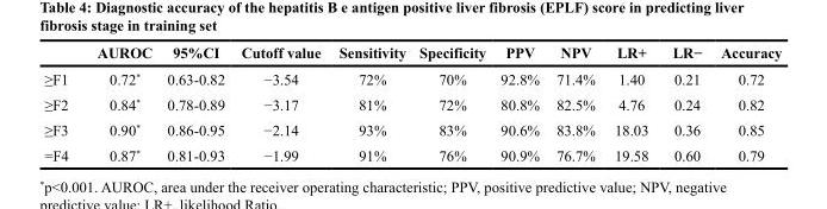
<table><thead><tr><td></td><td>AUROC</td><td>95%CI</td><td>Cutoff value</td><td>Sensitivity</td><td>Specificity</td><td>PPV</td><td>NPV</td><td>LR+</td><td>LR−</td><td>Accuracy</td></tr></thead><tbody><tr><td>≥F1</td><td>0.72*</td><td>0.63-0.82</td><td>−3.54</td><td>72%</td><td>70%</td><td>92.8%</td><td>71.4%</td><td>1.40</td><td>0.21</td><td>0.72</td></tr><tr><td>≥F2</td><td>0.84*</td><td>0.78-0.89</td><td>−3.17</td><td>81%</td><td>72%</td><td>80.8%</td><td>82.5%</td><td>4.76</td><td>0.24</td><td>0.82</td></tr><tr><td>≥F3</td><td>0.90*</td><td>0.86-0.95</td><td>−2.14</td><td>93%</td><td>83%</td><td>90.6%</td><td>83.8%</td><td>18.03</td><td>0.36</td><td>0.85</td></tr><tr><td>=F4</td><td>0.87*</td><td>0.81-0.93</td><td>−1.99</td><td>91%</td><td>76%</td><td>90.9%</td><td>76.7%</td><td>19.58</td><td>0.60</td><td>0.79</td></tr></tbody></table>